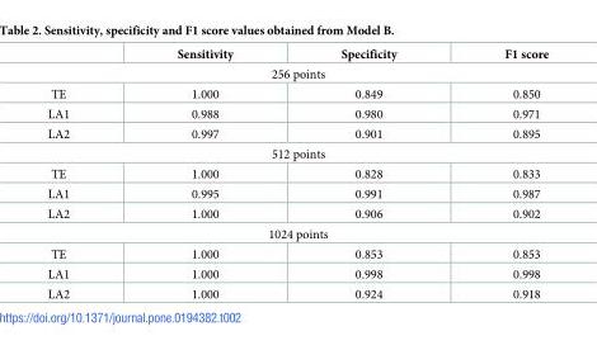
<table><thead><tr><td></td><td>Sensitivity</td><td>Specificity</td><td>F1 score</td></tr></thead><tbody><tr><td colspan="4">256 points</td></tr><tr><td>TE</td><td>1.000</td><td>0.849</td><td>0.850</td></tr><tr><td>LA1</td><td>0.988</td><td>0.980</td><td>0.971</td></tr><tr><td>LA2</td><td>0.997</td><td>0.901</td><td>0.895</td></tr><tr><td colspan="4">512 points</td></tr><tr><td>TE</td><td>1.000</td><td>0.828</td><td>0.833</td></tr><tr><td>LA1</td><td>0.995</td><td>0.991</td><td>0.987</td></tr><tr><td>LA2</td><td>1.000</td><td>0.906</td><td>0.902</td></tr><tr><td colspan="4">1024 points</td></tr><tr><td>TE</td><td>1.000</td><td>0.853</td><td>0.853</td></tr><tr><td>LA1</td><td>1.000</td><td>0.998</td><td>0.998</td></tr><tr><td>LA2</td><td>1.000</td><td>0.924</td><td>0.918</td></tr></tbody></table>